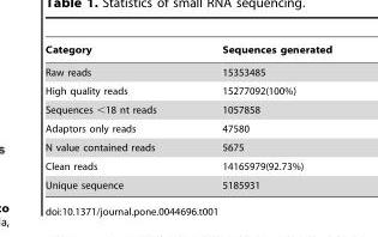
<table><thead><tr><td>Category</td><td>Sequences generated</td></tr></thead><tbody><tr><td>Raw reads</td><td>15353485</td></tr><tr><td>High quality reads</td><td>15277092(100%)</td></tr><tr><td>Sequences &lt;18 nt reads</td><td>1057858</td></tr><tr><td>Adaptors only reads</td><td>47580</td></tr><tr><td>N value contained reads</td><td>5675</td></tr><tr><td>Clean reads</td><td>14165979(92.73%)</td></tr><tr><td>Unique sequence</td><td>5185931</td></tr></tbody></table>